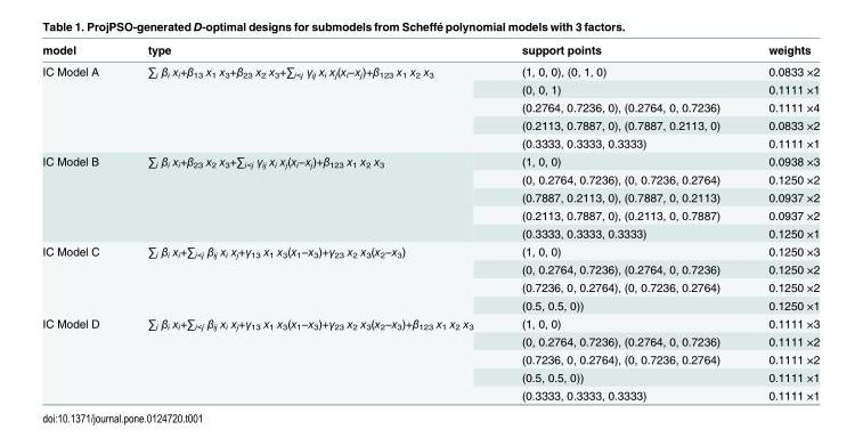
<table><thead><tr><td>model</td><td>type</td><td>support points</td><td>weights</td></tr></thead><tbody><tr><td rowspan="5">IC Model A</td><td rowspan="5">∑i βi xi+β13 x1 x3+β23 x2 x3+∑i&lt;j γij xi xj(xi−xj)+β123 x1 x2 x3</td><td>(1, 0, 0), (0, 1, 0)</td><td>0.0833 ×2</td></tr><tr><td>(0, 0, 1)</td><td>0.1111 ×1</td></tr><tr><td>(0.2764, 0.7236, 0), (0.2764, 0, 0.7236)</td><td>0.1111 ×4</td></tr><tr><td>(0.2113, 0.7887, 0), (0.7887, 0.2113, 0)</td><td>0.0833 ×2</td></tr><tr><td>(0.3333, 0.3333, 0.3333)</td><td>0.1111 ×1</td></tr><tr><td rowspan="5">IC Model B</td><td rowspan="5">∑i βi xi+β23 x2 x3+∑i&lt;j γij xi xj(xi−xj)+β123 x1 x2 x3</td><td>(1, 0, 0)</td><td>0.0938 ×3</td></tr><tr><td>(0, 0.2764, 0.7236), (0, 0.7236, 0.2764)</td><td>0.1250 ×2</td></tr><tr><td>(0.7887, 0.2113, 0), (0.7887, 0, 0.2113)</td><td>0.0937 ×2</td></tr><tr><td>(0.2113, 0.7887, 0), (0.2113, 0, 0.7887)</td><td>0.0937 ×2</td></tr><tr><td>(0.3333, 0.3333, 0.3333)</td><td>0.1250 ×1</td></tr><tr><td rowspan="4">IC Model C</td><td rowspan="4">∑i βi xi+∑i&lt;j βij xi xj+γ13 x1 x3(x1−x3)+γ23 x2 x3(x2−x3)</td><td>(1, 0, 0)</td><td>0.1250 ×3</td></tr><tr><td>(0, 0.2764, 0.7236), (0.2764, 0, 0.7236)</td><td>0.1250 ×2</td></tr><tr><td>(0.7236, 0, 0.2764), (0, 0.7236, 0.2764)</td><td>0.1250 ×2</td></tr><tr><td>(0.5, 0.5, 0))</td><td>0.1250 ×1</td></tr><tr><td rowspan="5">IC Model D</td><td rowspan="5">∑i βi xi+∑i&lt;j βij xi xj+γ13 x1 x3(x1−x3)+γ23 x2 x3(x2−x3)+β123 x1 x2 x3</td><td>(1, 0, 0)</td><td>0.1111 ×3</td></tr><tr><td>(0, 0.2764, 0.7236), (0.2764, 0, 0.7236)</td><td>0.1111 ×2</td></tr><tr><td>(0.7236, 0, 0.2764), (0, 0.7236, 0.2764)</td><td>0.1111 ×2</td></tr><tr><td>(0.5, 0.5, 0))</td><td>0.1111 ×1</td></tr><tr><td>(0.3333, 0.3333, 0.3333)</td><td>0.1111 ×1</td></tr></tbody></table>